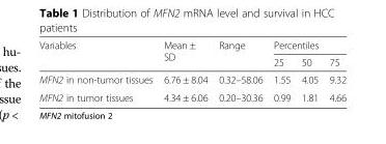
<table><thead><tr><td rowspan="2">Variables</td><td rowspan="2">Mean ± SD</td><td rowspan="2">Range</td><td colspan="3">Percentiles</td></tr><tr><td>25</td><td>50</td><td>75</td></tr></thead><tbody><tr><td>MFN2 in non-tumor tissues</td><td>6.76 ± 8.04</td><td>0.32–58.06</td><td>1.55</td><td>4.05</td><td>9.32</td></tr><tr><td>MFN2 in tumor tissues</td><td>4.34 ± 6.06</td><td>0.20–30.36</td><td>0.99</td><td>1.81</td><td>4.66</td></tr></tbody></table>